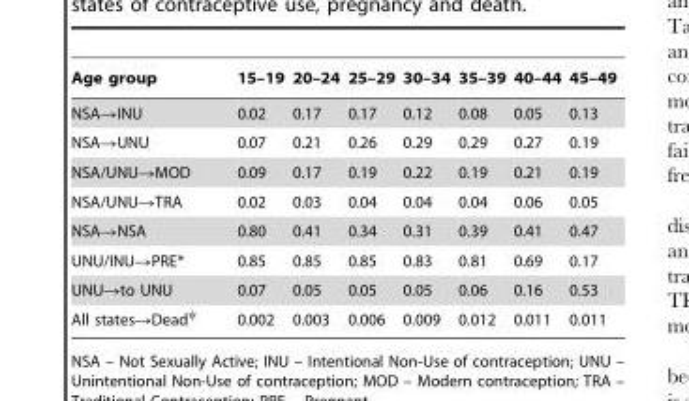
<table><thead><tr><td>Age group</td><td>15–19</td><td>20–24</td><td>25–29</td><td>30–34</td><td>35–39</td><td>40–44</td><td>45–49</td></tr></thead><tbody><tr><td>NSA→INU</td><td>0.02</td><td>0.17</td><td>0.17</td><td>0.12</td><td>0.08</td><td>0.05</td><td>0.13</td></tr><tr><td>NSA→UNU</td><td>0.07</td><td>0.21</td><td>0.26</td><td>0.29</td><td>0.29</td><td>0.27</td><td>0.19</td></tr><tr><td>NSA/UNU→MOD</td><td>0.09</td><td>0.17</td><td>0.19</td><td>0.22</td><td>0.19</td><td>0.21</td><td>0.19</td></tr><tr><td>NSA/UNU→TRA</td><td>0.02</td><td>0.03</td><td>0.04</td><td>0.04</td><td>0.04</td><td>0.06</td><td>0.05</td></tr><tr><td>NSA→NSA</td><td>0.80</td><td>0.41</td><td>0.34</td><td>0.31</td><td>0.39</td><td>0.41</td><td>0.47</td></tr><tr><td>UNU/INU→PRE*</td><td>0.85</td><td>0.85</td><td>0.85</td><td>0.83</td><td>0.81</td><td>0.69</td><td>0.17</td></tr><tr><td>UNU→to UNU</td><td>0.07</td><td>0.05</td><td>0.05</td><td>0.05</td><td>0.06</td><td>0.16</td><td>0.53</td></tr><tr><td>All states→Deadψ</td><td>0.002</td><td>0.003</td><td>0.006</td><td>0.009</td><td>0.012</td><td>0.011</td><td>0.011</td></tr></tbody></table>